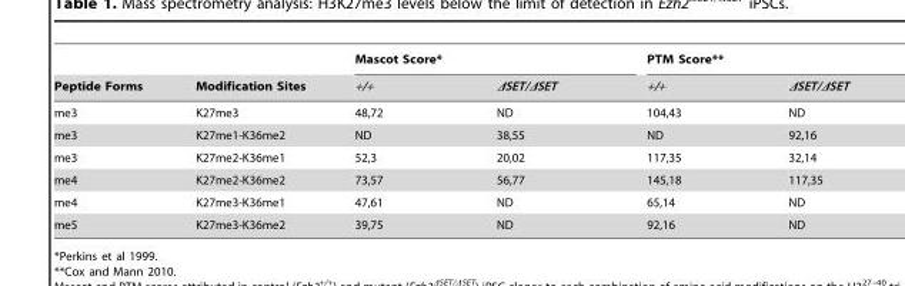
<table><thead><tr><td rowspan="2">Peptide Forms</td><td rowspan="2">Modification Sites</td><td colspan="2">Mascot Score*</td><td colspan="2">PTM Score**</td></tr><tr><td>+/+</td><td>ΔSET/ΔSET</td><td>+/+</td><td>ΔSET/ΔSET</td></tr></thead><tbody><tr><td>me3</td><td>K27me3</td><td>48,72</td><td>ND</td><td>104,43</td><td>ND</td></tr><tr><td>me3</td><td>K27me1-K36me2</td><td>ND</td><td>38,55</td><td>ND</td><td>92,16</td></tr><tr><td>me3</td><td>K27me2-K36me1</td><td>52,3</td><td>20,02</td><td>117,35</td><td>32,14</td></tr><tr><td>me4</td><td>K27me2-K36me2</td><td>73,57</td><td>56,77</td><td>145,18</td><td>117,35</td></tr><tr><td>me4</td><td>K27me3-K36me1</td><td>47,61</td><td>ND</td><td>65,14</td><td>ND</td></tr><tr><td>me5</td><td>K27me3-K36me2</td><td>39,75</td><td>ND</td><td>92,16</td><td>ND</td></tr></tbody></table>